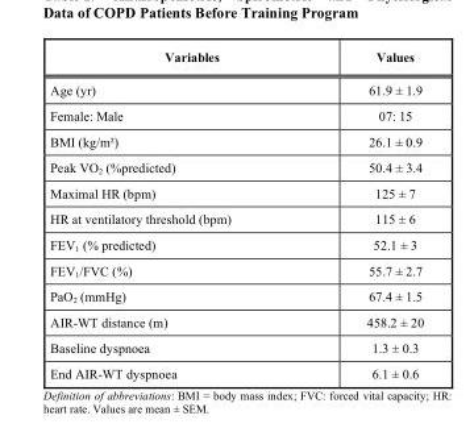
<table><thead><tr><td>Variables</td><td>Values</td></tr></thead><tbody><tr><td>Age (yr)</td><td>61.9 ± 1.9</td></tr><tr><td>Female: Male</td><td>07: 15</td></tr><tr><td>BMI (kg/m<sup>2</sup>)</td><td>26.1 ± 0.9</td></tr><tr><td>Peak VO<sub>2</sub> (%predicted)</td><td>50.4 ± 3.4</td></tr><tr><td>Maximal HR (bpm)</td><td>125 ± 7</td></tr><tr><td>HR at ventilatory threshold (bpm)</td><td>115 ± 6</td></tr><tr><td>FEV<sub>1</sub> (% predicted)</td><td>52.1 ± 3</td></tr><tr><td>FEV<sub>1</sub>/FVC (%)</td><td>55.7 ± 2.7</td></tr><tr><td>PaO<sub>2</sub> (mmHg)</td><td>67.4 ± 1.5</td></tr><tr><td>AIR-WT distance (m)</td><td>458.2 ± 20</td></tr><tr><td>Baseline dyspnoea</td><td>1.3 ± 0.3</td></tr><tr><td>End AIR-WT dyspnoea</td><td>6.1 ± 0.6</td></tr></tbody></table>